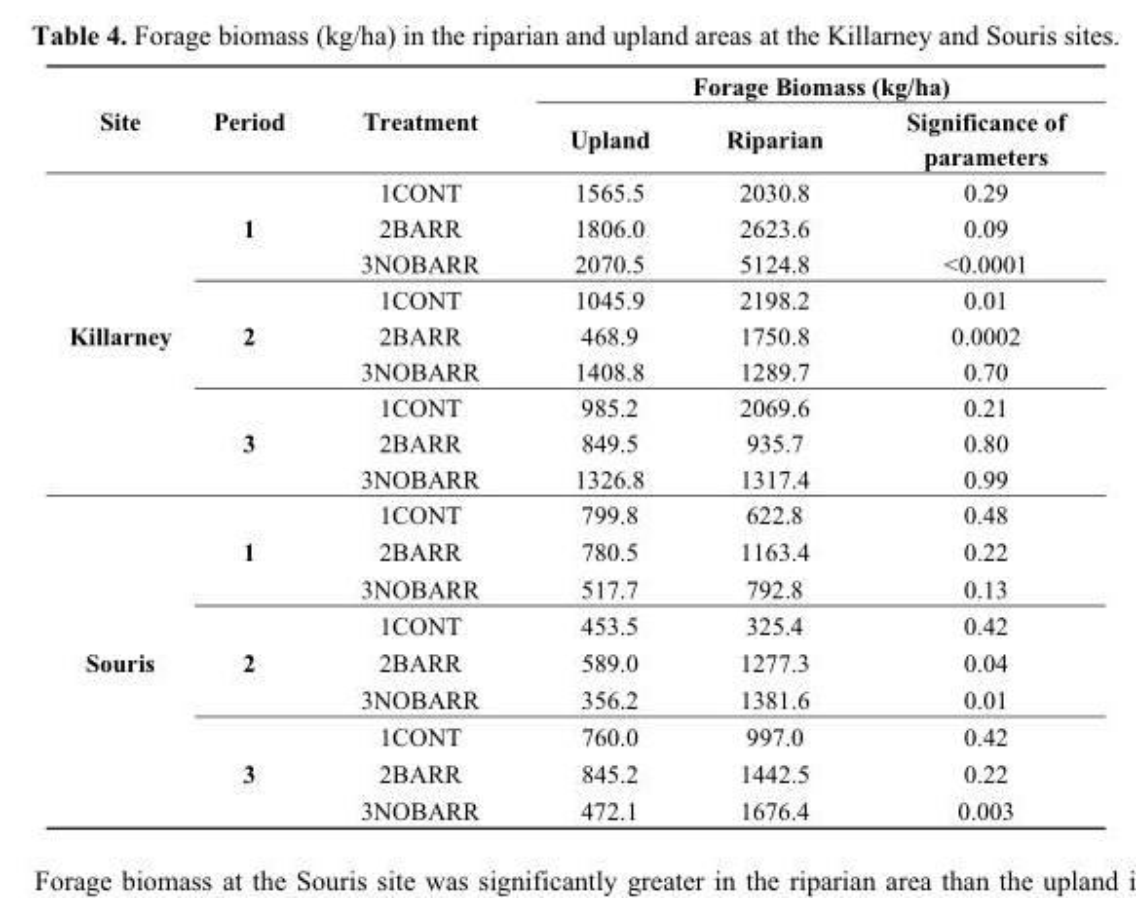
<table><thead><tr><td rowspan="2">Site</td><td rowspan="2">Period</td><td rowspan="2">Treatment</td><td colspan="3">Forage Biomass (kg/ha)</td></tr><tr><td>Upland</td><td>Riparian</td><td>Significance of parameters</td></tr></thead><tbody><tr><td rowspan="9">Killarney</td><td rowspan="3">1</td><td>1CONT</td><td>1565.5</td><td>2030.8</td><td>0.29</td></tr><tr><td>2BARR</td><td>1806.0</td><td>2623.6</td><td>0.09</td></tr><tr><td>3NOBARR</td><td>2070.5</td><td>5124.8</td><td>&lt;0.0001</td></tr><tr><td rowspan="3">2</td><td>1CONT</td><td>1045.9</td><td>2198.2</td><td>0.01</td></tr><tr><td>2BARR</td><td>468.9</td><td>1750.8</td><td>0.0002</td></tr><tr><td>3NOBARR</td><td>1408.8</td><td>1289.7</td><td>0.70</td></tr><tr><td rowspan="3">3</td><td>1CONT</td><td>985.2</td><td>2069.6</td><td>0.21</td></tr><tr><td>2BARR</td><td>849.5</td><td>935.7</td><td>0.80</td></tr><tr><td>3NOBARR</td><td>1326.8</td><td>1317.4</td><td>0.99</td></tr><tr><td rowspan="9">Souris</td><td rowspan="3">1</td><td>1CONT</td><td>799.8</td><td>622.8</td><td>0.48</td></tr><tr><td>2BARR</td><td>780.5</td><td>1163.4</td><td>0.22</td></tr><tr><td>3NOBARR</td><td>517.7</td><td>792.8</td><td>0.13</td></tr><tr><td rowspan="3">2</td><td>1CONT</td><td>453.5</td><td>325.4</td><td>0.42</td></tr><tr><td>2BARR</td><td>589.0</td><td>1277.3</td><td>0.04</td></tr><tr><td>3NOBARR</td><td>356.2</td><td>1381.6</td><td>0.01</td></tr><tr><td rowspan="3">3</td><td>1CONT</td><td>760.0</td><td>997.0</td><td>0.42</td></tr><tr><td>2BARR</td><td>845.2</td><td>1442.5</td><td>0.22</td></tr><tr><td>3NOBARR</td><td>472.1</td><td>1676.4</td><td>0.003</td></tr></tbody></table>